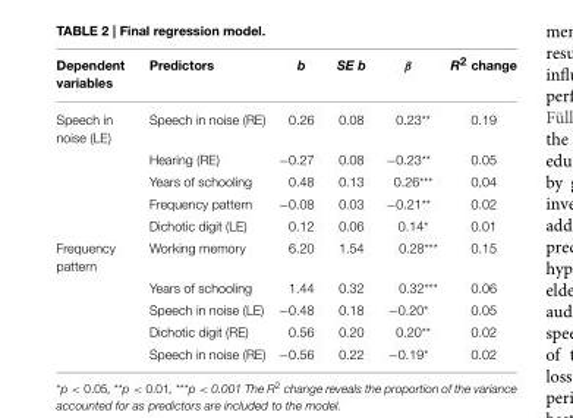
<table><thead><tr><td>Dependent variables</td><td>Predictors</td><td>b</td><td>SE b</td><td>β</td><td>R<sup>2</sup> change</td></tr></thead><tbody><tr><td rowspan="5">Speech in noise (LE)</td><td>Speech in noise (RE)</td><td>0.26</td><td>0.08</td><td>0.23**</td><td>0.19</td></tr><tr><td>Hearing (RE)</td><td>−0.27</td><td>0.08</td><td>−0.23**</td><td>0.05</td></tr><tr><td>Years of schooling</td><td>0.48</td><td>0.13</td><td>0.26***</td><td>0,04</td></tr><tr><td>Frequency pattern</td><td>−0.08</td><td>0.03</td><td>−0.21**</td><td>0.02</td></tr><tr><td>Dichotic digit (LE)</td><td>0.12</td><td>0.06</td><td>0.14*</td><td>0.01</td></tr><tr><td rowspan="5">Frequency pattern</td><td>Working memory</td><td>6.20</td><td>1.54</td><td>0.28***</td><td>0.15</td></tr><tr><td>Years of schooling</td><td>1.44</td><td>0.32</td><td>0.32***</td><td>0.06</td></tr><tr><td>Speech in noise (LE)</td><td>−0.48</td><td>0.18</td><td>−0.20*</td><td>0.05</td></tr><tr><td>Dichotic digit (RE)</td><td>0.56</td><td>0.20</td><td>0.20**</td><td>0.02</td></tr><tr><td>Speech in noise (RE)</td><td>−0.56</td><td>0.22</td><td>−0.19*</td><td>0.02</td></tr></tbody></table>